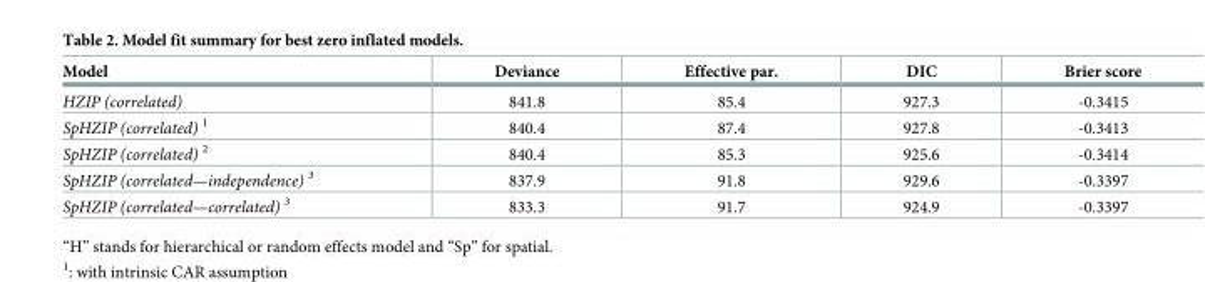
<table><thead><tr><td>Model</td><td>Deviance</td><td>Effective par.</td><td>DIC</td><td>Brier score</td></tr></thead><tbody><tr><td>HZIP (correlated)</td><td>841.8</td><td>85.4</td><td>927.3</td><td>-0.3415</td></tr><tr><td>SpHZIP (correlated) <sup>1</sup></td><td>840.4</td><td>87.4</td><td>927.8</td><td>-0.3413</td></tr><tr><td>SpHZIP (correlated) <sup>2</sup></td><td>840.4</td><td>85.3</td><td>925.6</td><td>-0.3414</td></tr><tr><td>SpHZIP (correlated—independence) <sup>3</sup></td><td>837.9</td><td>91.8</td><td>929.6</td><td>-0.3397</td></tr><tr><td>SpHZIP (correlated—correlated) <sup>3</sup></td><td>833.3</td><td>91.7</td><td>924.9</td><td>-0.3397</td></tr></tbody></table>